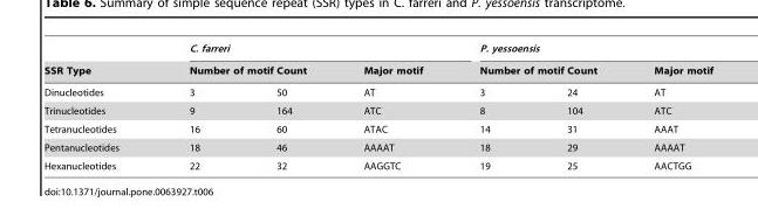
<table><thead><tr><td rowspan="2">SSR Type</td><td colspan="3">C. farreri</td><td colspan="3">P. yessoensis</td></tr><tr><td>Number of motif</td><td>Count</td><td>Major motif</td><td>Number of motif</td><td>Count</td><td>Major motif</td></tr></thead><tbody><tr><td>Dinucleotides</td><td>3</td><td>50</td><td>AT</td><td>3</td><td>24</td><td>AT</td></tr><tr><td>Trinucleotides</td><td>9</td><td>164</td><td>ATC</td><td>8</td><td>104</td><td>ATC</td></tr><tr><td>Tetranucleotides</td><td>16</td><td>60</td><td>ATAC</td><td>14</td><td>31</td><td>AAAT</td></tr><tr><td>Pentanucleotides</td><td>18</td><td>46</td><td>AAAAT</td><td>18</td><td>29</td><td>AAAAT</td></tr><tr><td>Hexanucleotides</td><td>22</td><td>32</td><td>AAGGTC</td><td>19</td><td>25</td><td>AACTGG</td></tr></tbody></table>